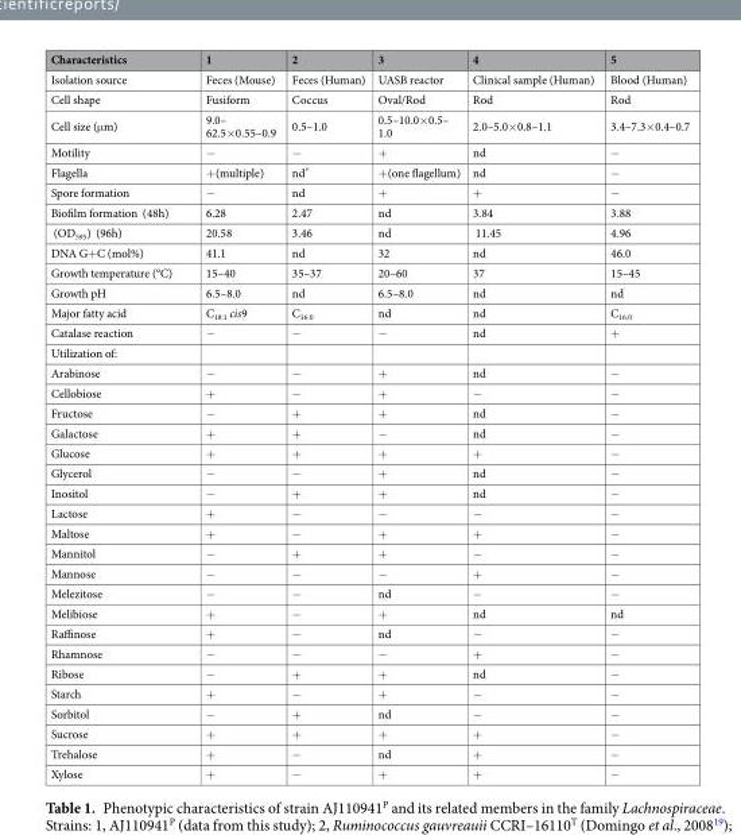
<table><thead><tr><td>Characteristics</td><td>1</td><td>2</td><td>3</td><td>4</td><td>5</td></tr></thead><tbody><tr><td>Isolation source</td><td>Feces (Mouse)</td><td>Feces (Human)</td><td>UASB reactor</td><td>Clinical sample (Human)</td><td>Blood (Human)</td></tr><tr><td>Cell shape</td><td>Fusiform</td><td>Coccus</td><td>Oval/Rod</td><td>Rod</td><td>Rod</td></tr><tr><td>Cell size (μm)</td><td>9.0– 62.5×0.55–0.9</td><td>0.5–1.0</td><td>0.5–10.0×0.5– 1.0</td><td>2.0–5.0×0.8–1.1</td><td>3.4–7.3×0.4–0.7</td></tr><tr><td>Motility</td><td>−</td><td>−</td><td>+</td><td>nd</td><td>−</td></tr><tr><td>Flagella</td><td>+(multiple)</td><td>nd*</td><td>+(one flagellum)</td><td>nd</td><td>−</td></tr><tr><td>Spore formation</td><td>−</td><td>nd</td><td>+</td><td>+</td><td>−</td></tr><tr><td>Biofilm formation (48h)</td><td>6.28</td><td>2.47</td><td>nd</td><td>3.84</td><td>3.88</td></tr><tr><td>(OD<sub>595</sub>) (96h)</td><td>20.58</td><td>3.46</td><td>nd</td><td>11.45</td><td>4.96</td></tr><tr><td>DNA G+C (mol%)</td><td>41.1</td><td>nd</td><td>32</td><td>nd</td><td>46.0</td></tr><tr><td>Growth temperature (°C)</td><td>15–40</td><td>35–37</td><td>20–60</td><td>37</td><td>15–45</td></tr><tr><td>Growth pH</td><td>6.5–8.0</td><td>nd</td><td>6.5–8.0</td><td>nd</td><td>nd</td></tr><tr><td>Major fatty acid</td><td>C<sub>18:1</sub> cis9</td><td>C<sub>16:0</sub></td><td>nd</td><td>nd</td><td>C<sub>16:0</sub></td></tr><tr><td>Catalase reaction</td><td>−</td><td>−</td><td>−</td><td>nd</td><td>+</td></tr><tr><td colspan="6">Utilization of:</td></tr><tr><td>Arabinose</td><td>−</td><td>−</td><td>+</td><td>nd</td><td>−</td></tr><tr><td>Cellobiose</td><td>+</td><td>−</td><td>+</td><td>−</td><td>−</td></tr><tr><td>Fructose</td><td>−</td><td>+</td><td>+</td><td>nd</td><td>−</td></tr><tr><td>Galactose</td><td>+</td><td>+</td><td>−</td><td>nd</td><td>−</td></tr><tr><td>Glucose</td><td>+</td><td>+</td><td>+</td><td>+</td><td>−</td></tr><tr><td>Glycerol</td><td>−</td><td>−</td><td>+</td><td>nd</td><td>−</td></tr><tr><td>Inositol</td><td>−</td><td>+</td><td>+</td><td>nd</td><td>−</td></tr><tr><td>Lactose</td><td>+</td><td>−</td><td>−</td><td>−</td><td>−</td></tr><tr><td>Maltose</td><td>+</td><td>−</td><td>+</td><td>+</td><td>−</td></tr><tr><td>Mannitol</td><td>−</td><td>+</td><td>+</td><td>−</td><td>−</td></tr><tr><td>Mannose</td><td>−</td><td>−</td><td>−</td><td>+</td><td>−</td></tr><tr><td>Melezitose</td><td>−</td><td>−</td><td>nd</td><td>−</td><td>−</td></tr><tr><td>Melibiose</td><td>+</td><td>−</td><td>+</td><td>nd</td><td>nd</td></tr><tr><td>Raffinose</td><td>+</td><td>−</td><td>nd</td><td>−</td><td>−</td></tr><tr><td>Rhamnose</td><td>−</td><td>−</td><td>−</td><td>+</td><td>−</td></tr><tr><td>Ribose</td><td>−</td><td>+</td><td>+</td><td>nd</td><td>−</td></tr><tr><td>Starch</td><td>+</td><td>−</td><td>+</td><td>−</td><td>−</td></tr><tr><td>Sorbitol</td><td>−</td><td>+</td><td>nd</td><td>−</td><td>−</td></tr><tr><td>Sucrose</td><td>+</td><td>+</td><td>+</td><td>+</td><td>−</td></tr><tr><td>Trehalose</td><td>+</td><td>−</td><td>nd</td><td>+</td><td>−</td></tr><tr><td>Xylose</td><td>+</td><td>−</td><td>+</td><td>+</td><td>−</td></tr></tbody></table>